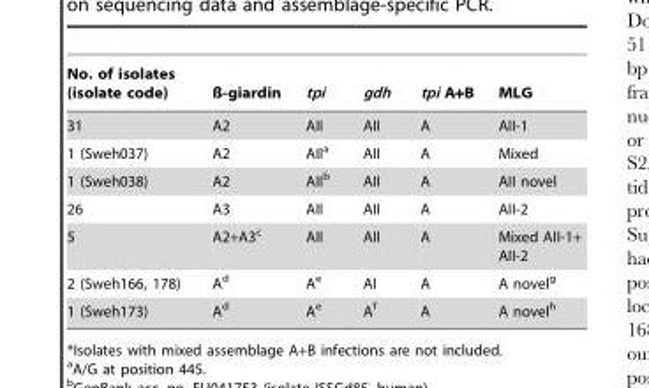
<table><thead><tr><td>No. of isolates (isolate code)</td><td>ß-giardin</td><td>tpi</td><td>gdh</td><td>tpi A+B</td><td>MLG</td></tr></thead><tbody><tr><td>31</td><td>A2</td><td>AII</td><td>AII</td><td>A</td><td>AII-1</td></tr><tr><td>1 (Sweh037)</td><td>A2</td><td>AII<sup>a</sup></td><td>AII</td><td>A</td><td>Mixed</td></tr><tr><td>1 (Sweh038)</td><td>A2</td><td>AII<sup>b</sup></td><td>AII</td><td>A</td><td>AII novel</td></tr><tr><td>26</td><td>A3</td><td>AII</td><td>AII</td><td>A</td><td>AII-2</td></tr><tr><td>5</td><td>A2+A3<sup>c</sup></td><td>AII</td><td>AII</td><td>A</td><td>Mixed AII-1+ AII-2</td></tr><tr><td>2 (Sweh166, 178)</td><td>A<sup>d</sup></td><td>A<sup>e</sup></td><td>AI</td><td>A</td><td>A novel<sup>g</sup></td></tr><tr><td>1 (Sweh173)</td><td>A<sup>d</sup></td><td>A<sup>e</sup></td><td>A<sup>f</sup></td><td>A</td><td>A novel<sup>h</sup></td></tr></tbody></table>